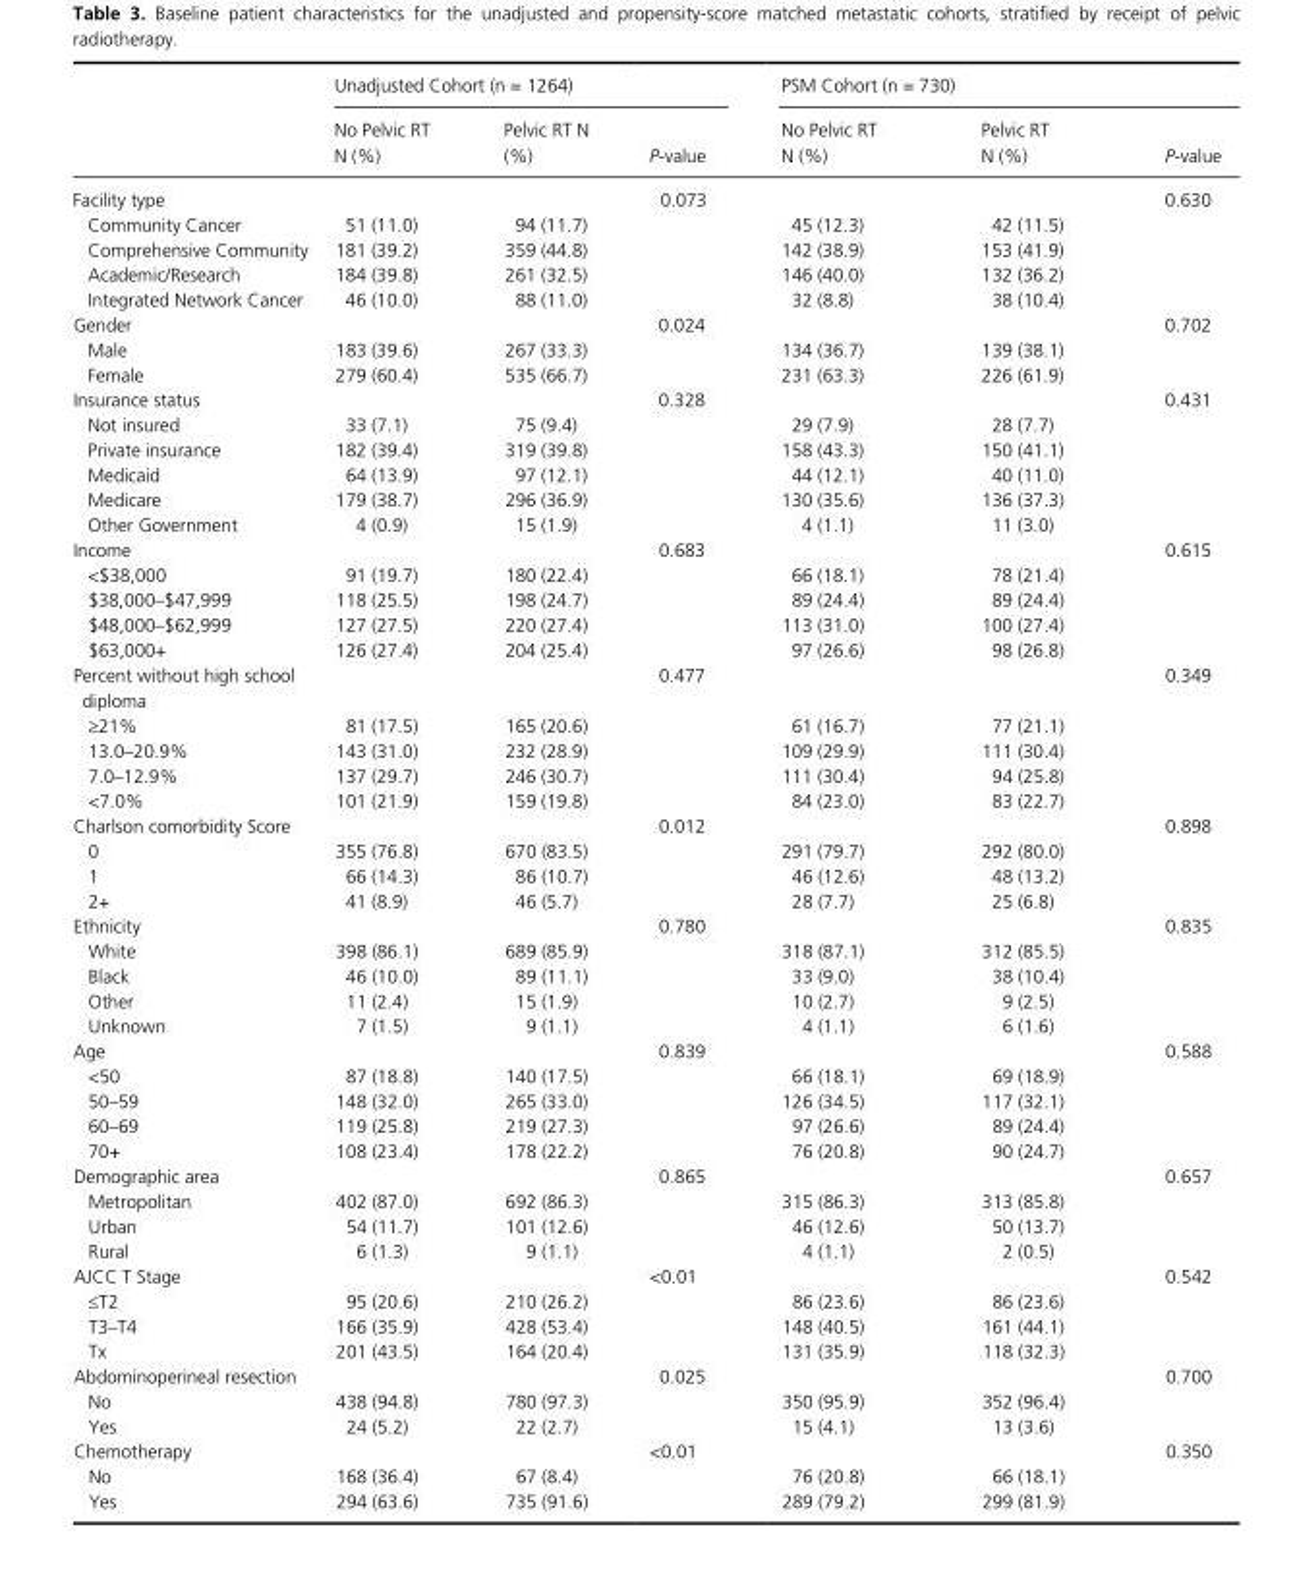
<table><thead><tr><td rowspan="2"></td><td colspan="3">Unadjusted Cohort (n = 1264)</td><td colspan="3">PSM Cohort (n = 730)</td></tr><tr><td>No Pelvic RT N (%)</td><td>Pelvic RT N (%)</td><td>P-value</td><td>No Pelvic RT N (%)</td><td>Pelvic RT N (%)</td><td>P-value</td></tr></thead><tbody><tr><td>Facility type</td><td></td><td></td><td>0.073</td><td></td><td></td><td>0.630</td></tr><tr><td>Community Cancer</td><td>51 (11.0)</td><td>94 (11.7)</td><td></td><td>45 (12.3)</td><td>42 (11.5)</td><td></td></tr><tr><td>Comprehensive Community</td><td>181 (39.2)</td><td>359 (44.8)</td><td></td><td>142 (38.9)</td><td>153 (41.9)</td><td></td></tr><tr><td>Academic/Research</td><td>184 (39.8)</td><td>261 (32.5)</td><td></td><td>146 (40.0)</td><td>132 (36.2)</td><td></td></tr><tr><td>Integrated Network Cancer</td><td>46 (10.0)</td><td>88 (11.0)</td><td></td><td>32 (8.8)</td><td>38 (10.4)</td><td></td></tr><tr><td>Gender</td><td></td><td></td><td>0.024</td><td></td><td></td><td>0.702</td></tr><tr><td>Male</td><td>183 (39.6)</td><td>267 (33.3)</td><td></td><td>134 (36.7)</td><td>139 (38.1)</td><td></td></tr><tr><td>Female</td><td>279 (60.4)</td><td>535 (66.7)</td><td></td><td>231 (63.3)</td><td>226 (61.9)</td><td></td></tr><tr><td>Insurance status</td><td></td><td></td><td>0.328</td><td></td><td></td><td>0.431</td></tr><tr><td>Not insured</td><td>33 (7.1)</td><td>75 (9.4)</td><td></td><td>29 (7.9)</td><td>28 (7.7)</td><td></td></tr><tr><td>Private insurance</td><td>182 (39.4)</td><td>319 (39.8)</td><td></td><td>158 (43.3)</td><td>150 (41.1)</td><td></td></tr><tr><td>Medicaid</td><td>64 (13.9)</td><td>97 (12.1)</td><td></td><td>44 (12.1)</td><td>40 (11.0)</td><td></td></tr><tr><td>Medicare</td><td>179 (38.7)</td><td>296 (36.9)</td><td></td><td>130 (35.6)</td><td>136 (37.3)</td><td></td></tr><tr><td>Other Government</td><td>4 (0.9)</td><td>15 (1.9)</td><td></td><td>4 (1.1)</td><td>11 (3.0)</td><td></td></tr><tr><td>Income</td><td></td><td></td><td>0.683</td><td></td><td></td><td>0.615</td></tr><tr><td>&lt;$38,000</td><td>91 (19.7)</td><td>180 (22.4)</td><td></td><td>66 (18.1)</td><td>78 (21.4)</td><td></td></tr><tr><td>$38,000–$47,999</td><td>118 (25.5)</td><td>198 (24.7)</td><td></td><td>89 (24.4)</td><td>89 (24.4)</td><td></td></tr><tr><td>$48,000–$62,999</td><td>127 (27.5)</td><td>220 (27.4)</td><td></td><td>113 (31.0)</td><td>100 (27.4)</td><td></td></tr><tr><td>$63,000+</td><td>126 (27.4)</td><td>204 (25.4)</td><td></td><td>97 (26.6)</td><td>98 (26.8)</td><td></td></tr><tr><td>Percent without high school diploma</td><td></td><td></td><td>0.477</td><td></td><td></td><td>0.349</td></tr><tr><td>≥21%</td><td>81 (17.5)</td><td>165 (20.6)</td><td></td><td>61 (16.7)</td><td>77 (21.1)</td><td></td></tr><tr><td>13.0–20.9%</td><td>143 (31.0)</td><td>232 (28.9)</td><td></td><td>109 (29.9)</td><td>111 (30.4)</td><td></td></tr><tr><td>7.0–12.9%</td><td>137 (29.7)</td><td>246 (30.7)</td><td></td><td>111 (30.4)</td><td>94 (25.8)</td><td></td></tr><tr><td>&lt;7.0%</td><td>101 (21.9)</td><td>159 (19.8)</td><td></td><td>84 (23.0)</td><td>83 (22.7)</td><td></td></tr><tr><td>Charlson comorbidity Score</td><td></td><td></td><td>0.012</td><td></td><td></td><td>0.898</td></tr><tr><td>0</td><td>355 (76.8)</td><td>670 (83.5)</td><td></td><td>291 (79.7)</td><td>292 (80.0)</td><td></td></tr><tr><td>1</td><td>66 (14.3)</td><td>86 (10.7)</td><td></td><td>46 (12.6)</td><td>48 (13.2)</td><td></td></tr><tr><td>2+</td><td>41 (8.9)</td><td>46 (5.7)</td><td></td><td>28 (7.7)</td><td>25 (6.8)</td><td></td></tr><tr><td>Ethnicity</td><td></td><td></td><td>0.780</td><td></td><td></td><td>0.835</td></tr><tr><td>White</td><td>398 (86.1)</td><td>689 (85.9)</td><td></td><td>318 (87.1)</td><td>312 (85.5)</td><td></td></tr><tr><td>Black</td><td>46 (10.0)</td><td>89 (11.1)</td><td></td><td>33 (9.0)</td><td>38 (10.4)</td><td></td></tr><tr><td>Other</td><td>11 (2.4)</td><td>15 (1.9)</td><td></td><td>10 (2.7)</td><td>9 (2.5)</td><td></td></tr><tr><td>Unknown</td><td>7 (1.5)</td><td>9 (1.1)</td><td></td><td>4 (1.1)</td><td>6 (1.6)</td><td></td></tr><tr><td>Age</td><td></td><td></td><td>0.839</td><td></td><td></td><td>0.588</td></tr><tr><td>&lt;50</td><td>87 (18.8)</td><td>140 (17.5)</td><td></td><td>66 (18.1)</td><td>69 (18.9)</td><td></td></tr><tr><td>50–59</td><td>148 (32.0)</td><td>265 (33.0)</td><td></td><td>126 (34.5)</td><td>117 (32.1)</td><td></td></tr><tr><td>60–69</td><td>119 (25.8)</td><td>219 (27.3)</td><td></td><td>97 (26.6)</td><td>89 (24.4)</td><td></td></tr><tr><td>70+</td><td>108 (23.4)</td><td>178 (22.2)</td><td></td><td>76 (20.8)</td><td>90 (24.7)</td><td></td></tr><tr><td>Demographic area</td><td></td><td></td><td>0.865</td><td></td><td></td><td>0.657</td></tr><tr><td>Metropolitan</td><td>402 (87.0)</td><td>692 (86.3)</td><td></td><td>315 (86.3)</td><td>313 (85.8)</td><td></td></tr><tr><td>Urban</td><td>54 (11.7)</td><td>101 (12.6)</td><td></td><td>46 (12.6)</td><td>50 (13.7)</td><td></td></tr><tr><td>Rural</td><td>6 (1.3)</td><td>9 (1.1)</td><td></td><td>4 (1.1)</td><td>2 (0.5)</td><td></td></tr><tr><td>AJCC T Stage</td><td></td><td></td><td>&lt;0.01</td><td></td><td></td><td>0.542</td></tr><tr><td>≤T2</td><td>95 (20.6)</td><td>210 (26.2)</td><td></td><td>86 (23.6)</td><td>86 (23.6)</td><td></td></tr><tr><td>T3–T4</td><td>166 (35.9)</td><td>428 (53.4)</td><td></td><td>148 (40.5)</td><td>161 (44.1)</td><td></td></tr><tr><td>Tx</td><td>201 (43.5)</td><td>164 (20.4)</td><td></td><td>131 (35.9)</td><td>118 (32.3)</td><td></td></tr><tr><td>Abdominoperineal resection</td><td></td><td></td><td>0.025</td><td></td><td></td><td>0.700</td></tr><tr><td>No</td><td>438 (94.8)</td><td>780 (97.3)</td><td></td><td>350 (95.9)</td><td>352 (96.4)</td><td></td></tr><tr><td>Yes</td><td>24 (5.2)</td><td>22 (2.7)</td><td></td><td>15 (4.1)</td><td>13 (3.6)</td><td></td></tr><tr><td>Chemotherapy</td><td></td><td></td><td>&lt;0.01</td><td></td><td></td><td>0.350</td></tr><tr><td>No</td><td>168 (36.4)</td><td>67 (8.4)</td><td></td><td>76 (20.8)</td><td>66 (18.1)</td><td></td></tr><tr><td>Yes</td><td>294 (63.6)</td><td>735 (91.6)</td><td></td><td>289 (79.2)</td><td>299 (81.9)</td><td></td></tr></tbody></table>